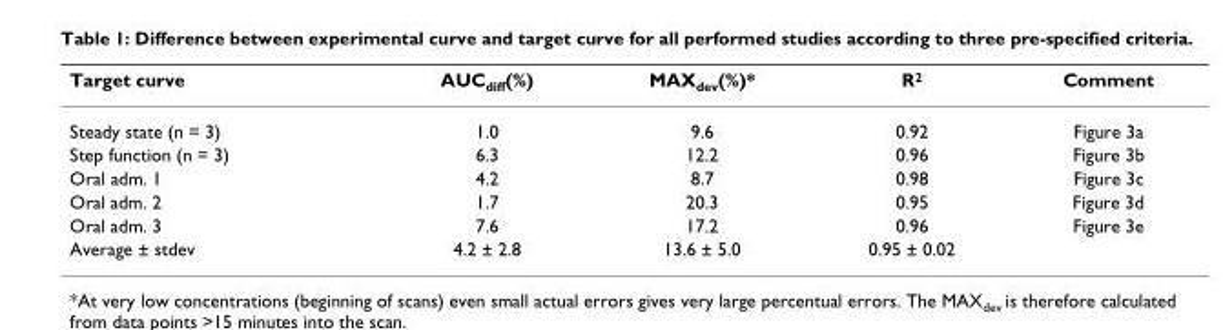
<table><thead><tr><td>Target curve</td><td>AUC<sub>diff</sub>(%)</td><td>MAX<sub>dev</sub>(%)*</td><td>R<sup>2</sup></td><td>Comment</td></tr></thead><tbody><tr><td>Steady state (n = 3)</td><td>1.0</td><td>9.6</td><td>0.92</td><td>Figure 3a</td></tr><tr><td>Step function (n = 3)</td><td>6.3</td><td>12.2</td><td>0.96</td><td>Figure 3b</td></tr><tr><td>Oral adm. 1</td><td>4.2</td><td>8.7</td><td>0.98</td><td>Figure 3c</td></tr><tr><td>Oral adm. 2</td><td>1.7</td><td>20.3</td><td>0.95</td><td>Figure 3d</td></tr><tr><td>Oral adm. 3</td><td>7.6</td><td>17.2</td><td>0.96</td><td>Figure 3e</td></tr><tr><td>Average ± stdev</td><td>4.2 ± 2.8</td><td>13.6 ± 5.0</td><td>0.95 ± 0.02</td><td></td></tr></tbody></table>